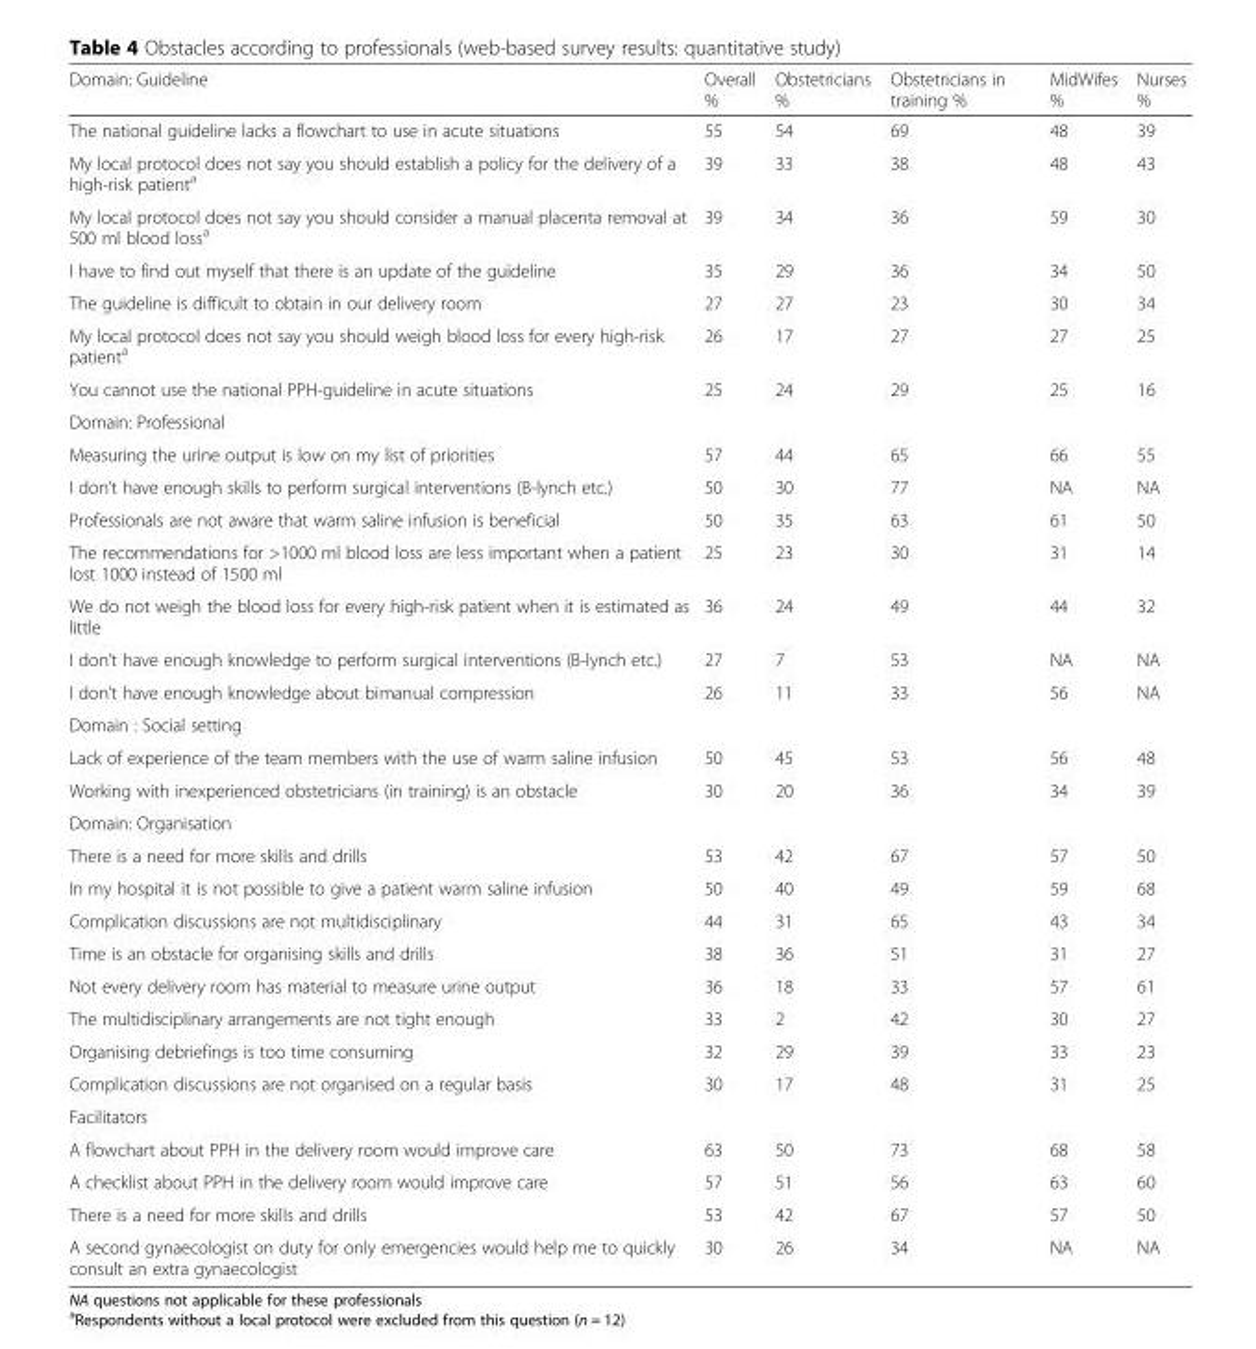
<table><thead><tr><td>Domain: Guideline</td><td>Overall %</td><td>Obstetricians %</td><td>Obstetricians in training %</td><td>MidWifes %</td><td>Nurses %</td></tr></thead><tbody><tr><td>The national guideline lacks a flowchart to use in acute situations</td><td>55</td><td>54</td><td>69</td><td>48</td><td>39</td></tr><tr><td>My local protocol does not say you should establish a policy for the delivery of a high-risk patient<sup>a</sup></td><td>39</td><td>33</td><td>38</td><td>48</td><td>43</td></tr><tr><td>My local protocol does not say you should consider a manual placenta removal at 500 ml blood loss<sup>a</sup></td><td>39</td><td>34</td><td>36</td><td>59</td><td>30</td></tr><tr><td>I have to find out myself that there is an update of the guideline</td><td>35</td><td>29</td><td>36</td><td>34</td><td>50</td></tr><tr><td>The guideline is difficult to obtain in our delivery room</td><td>27</td><td>27</td><td>23</td><td>30</td><td>34</td></tr><tr><td>My local protocol does not say you should weigh blood loss for every high-risk patient<sup>a</sup></td><td>26</td><td>17</td><td>27</td><td>27</td><td>25</td></tr><tr><td>You cannot use the national PPH-guideline in acute situations</td><td>25</td><td>24</td><td>29</td><td>25</td><td>16</td></tr><tr><td colspan="6">Domain: Professional</td></tr><tr><td>Measuring the urine output is low on my list of priorities</td><td>57</td><td>44</td><td>65</td><td>66</td><td>55</td></tr><tr><td>I don’t have enough skills to perform surgical interventions (B-lynch etc.)</td><td>50</td><td>30</td><td>77</td><td>NA</td><td>NA</td></tr><tr><td>Professionals are not aware that warm saline infusion is beneficial</td><td>50</td><td>35</td><td>63</td><td>61</td><td>50</td></tr><tr><td>The recommendations for &gt;1000 ml blood loss are less important when a patient lost 1000 instead of 1500 ml</td><td>25</td><td>23</td><td>30</td><td>31</td><td>14</td></tr><tr><td>We do not weigh the blood loss for every high-risk patient when it is estimated as little</td><td>36</td><td>24</td><td>49</td><td>44</td><td>32</td></tr><tr><td>I don’t have enough knowledge to perform surgical interventions (B-lynch etc.)</td><td>27</td><td>7</td><td>53</td><td>NA</td><td>NA</td></tr><tr><td>I don’t have enough knowledge about bimanual compression</td><td>26</td><td>11</td><td>33</td><td>56</td><td>NA</td></tr><tr><td colspan="6">Domain : Social setting</td></tr><tr><td>Lack of experience of the team members with the use of warm saline infusion</td><td>50</td><td>45</td><td>53</td><td>56</td><td>48</td></tr><tr><td>Working with inexperienced obstetricians (in training) is an obstacle</td><td>30</td><td>20</td><td>36</td><td>34</td><td>39</td></tr><tr><td colspan="6">Domain: Organisation</td></tr><tr><td>There is a need for more skills and drills</td><td>53</td><td>42</td><td>67</td><td>57</td><td>50</td></tr><tr><td>In my hospital it is not possible to give a patient warm saline infusion</td><td>50</td><td>40</td><td>49</td><td>59</td><td>68</td></tr><tr><td>Complication discussions are not multidisciplinary</td><td>44</td><td>31</td><td>65</td><td>43</td><td>34</td></tr><tr><td>Time is an obstacle for organising skills and drills</td><td>38</td><td>36</td><td>51</td><td>31</td><td>27</td></tr><tr><td>Not every delivery room has material to measure urine output</td><td>36</td><td>18</td><td>33</td><td>57</td><td>61</td></tr><tr><td>The multidisciplinary arrangements are not tight enough</td><td>33</td><td>2</td><td>42</td><td>30</td><td>27</td></tr><tr><td>Organising debriefings is too time consuming</td><td>32</td><td>29</td><td>39</td><td>33</td><td>23</td></tr><tr><td>Complication discussions are not organised on a regular basis</td><td>30</td><td>17</td><td>48</td><td>31</td><td>25</td></tr><tr><td colspan="6">Facilitators</td></tr><tr><td>A flowchart about PPH in the delivery room would improve care</td><td>63</td><td>50</td><td>73</td><td>68</td><td>58</td></tr><tr><td>A checklist about PPH in the delivery room would improve care</td><td>57</td><td>51</td><td>56</td><td>63</td><td>60</td></tr><tr><td>There is a need for more skills and drills</td><td>53</td><td>42</td><td>67</td><td>57</td><td>50</td></tr><tr><td>A second gynaecologist on duty for only emergencies would help me to quickly consult an extra gynaecologist</td><td>30</td><td>26</td><td>34</td><td>NA</td><td>NA</td></tr></tbody></table>